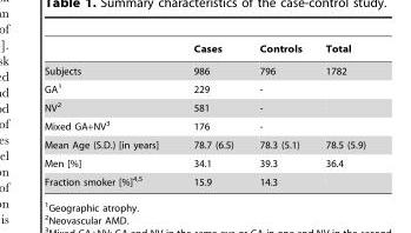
<table><thead><tr><td></td><td>Cases</td><td>Controls</td><td>Total</td></tr></thead><tbody><tr><td>Subjects</td><td>986</td><td>796</td><td>1782</td></tr><tr><td>GA<sup>1</sup></td><td>229</td><td>-</td><td></td></tr><tr><td>NV<sup>2</sup></td><td>581</td><td>-</td><td></td></tr><tr><td>Mixed GA+NV<sup>3</sup></td><td>176</td><td>-</td><td></td></tr><tr><td>Mean Age (S.D.) [in years]</td><td>78.7 (6.5)</td><td>78.3 (5.1)</td><td>78.5 (5.9)</td></tr><tr><td>Men [%]</td><td>34.1</td><td>39.3</td><td>36.4</td></tr><tr><td>Fraction smoker [%]<sup>4,</sup>5</td><td>15.9</td><td>14.3</td><td></td></tr></tbody></table>